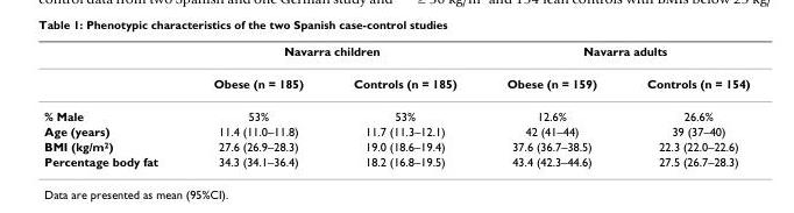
<table><thead><tr><td rowspan="2"></td><td colspan="2">Navarra children</td><td colspan="2">Navarra adults</td></tr><tr><td>Obese (n = 185)</td><td>Controls (n = 185)</td><td>Obese (n = 159)</td><td>Controls (n = 154)</td></tr></thead><tbody><tr><td>% Male</td><td>53%</td><td>53%</td><td>12.6%</td><td>26.6%</td></tr><tr><td>Age (years)</td><td>11.4 (11.0–11.8)</td><td>11.7 (11.3–12.1)</td><td>42 (41–44)</td><td>39 (37–40)</td></tr><tr><td>BMI (kg/m<sup>2</sup>)</td><td>27.6 (26.9–28.3)</td><td>19.0 (18.6–19.4)</td><td>37.6 (36.7–38.5)</td><td>22.3 (22.0–22.6)</td></tr><tr><td>Percentage body fat</td><td>34.3 (34.1–36.4)</td><td>18.2 (16.8–19.5)</td><td>43.4 (42.3–44.6)</td><td>27.5 (26.7–28.3)</td></tr></tbody></table>